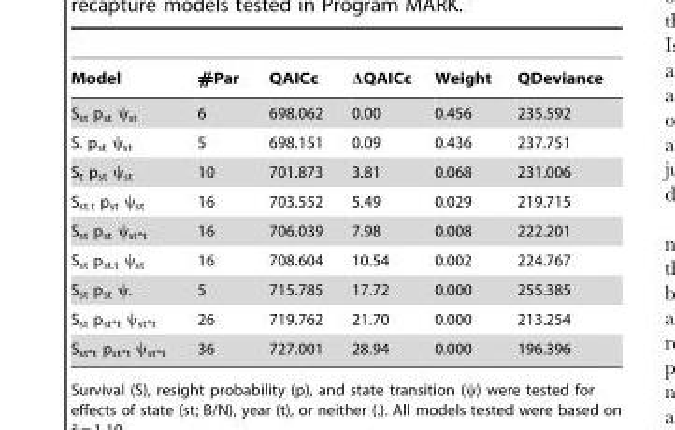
<table><thead><tr><td>Model</td><td>#Par</td><td>QAICc</td><td>ΔQAICc</td><td>Weight</td><td>QDeviance</td></tr></thead><tbody><tr><td>S<sub>st</sub> p<sub>st</sub> ψ<sub>st</sub></td><td>6</td><td>698.062</td><td>0.00</td><td>0.456</td><td>235.592</td></tr><tr><td>S. p<sub>st</sub> ψ<sub>st</sub></td><td>5</td><td>698.151</td><td>0.09</td><td>0.436</td><td>237.751</td></tr><tr><td>S<sub>t</sub> p<sub>st</sub> ψ<sub>st</sub></td><td>10</td><td>701.873</td><td>3.81</td><td>0.068</td><td>231.006</td></tr><tr><td>S<sub>st.t</sub> p<sub>st</sub> ψ<sub>st</sub></td><td>16</td><td>703.552</td><td>5.49</td><td>0.029</td><td>219.715</td></tr><tr><td>S<sub>st</sub> p<sub>st</sub> ψ<sub>st*t</sub></td><td>16</td><td>706.039</td><td>7.98</td><td>0.008</td><td>222.201</td></tr><tr><td>S<sub>st</sub> p<sub>st.t</sub> ψ<sub>st</sub></td><td>16</td><td>708.604</td><td>10.54</td><td>0.002</td><td>224.767</td></tr><tr><td>S<sub>st</sub> p<sub>st</sub> ψ.</td><td>5</td><td>715.785</td><td>17.72</td><td>0.000</td><td>255.385</td></tr><tr><td>S<sub>st</sub> p<sub>st*t</sub> ψ<sub>st*t</sub></td><td>26</td><td>719.762</td><td>21.70</td><td>0.000</td><td>213.254</td></tr><tr><td>S<sub>st*t</sub> p<sub>st*t</sub> ψ<sub>st*t</sub></td><td>36</td><td>727.001</td><td>28.94</td><td>0.000</td><td>196.396</td></tr></tbody></table>